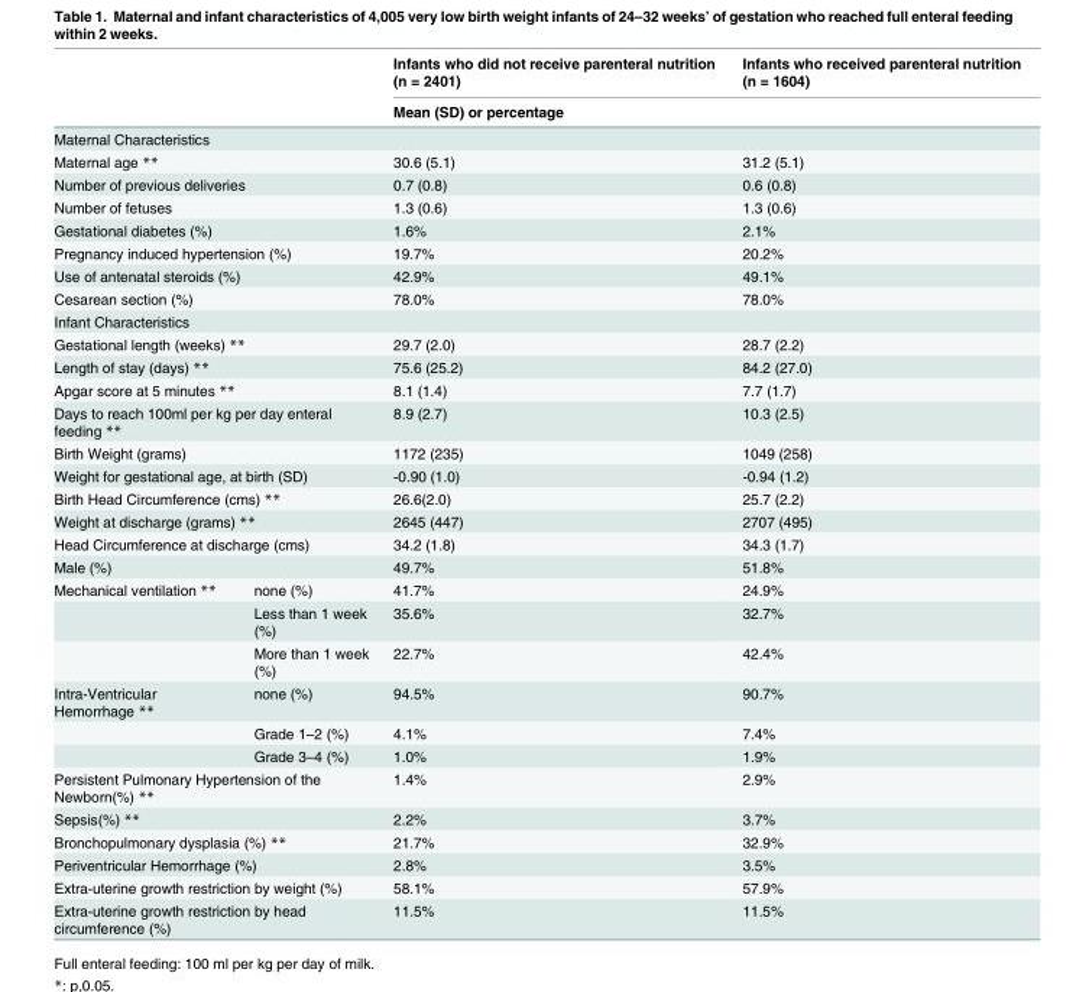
<table><thead><tr><td rowspan="2"></td><td rowspan="2"></td><td>Infants who did not receive parenteral nutrition (n = 2401)</td><td>Infants who received parenteral nutrition (n = 1604)</td></tr><tr><td colspan="2">Mean (SD) or percentage</td></tr></thead><tbody><tr><td colspan="4">Maternal Characteristics</td></tr><tr><td colspan="2">Maternal age **</td><td>30.6 (5.1)</td><td>31.2 (5.1)</td></tr><tr><td colspan="2">Number of previous deliveries</td><td>0.7 (0.8)</td><td>0.6 (0.8)</td></tr><tr><td colspan="2">Number of fetuses</td><td>1.3 (0.6)</td><td>1.3 (0.6)</td></tr><tr><td colspan="2">Gestational diabetes (%)</td><td>1.6%</td><td>2.1%</td></tr><tr><td colspan="2">Pregnancy induced hypertension (%)</td><td>19.7%</td><td>20.2%</td></tr><tr><td colspan="2">Use of antenatal steroids (%)</td><td>42.9%</td><td>49.1%</td></tr><tr><td colspan="2">Cesarean section (%)</td><td>78.0%</td><td>78.0%</td></tr><tr><td colspan="4">Infant Characteristics</td></tr><tr><td colspan="2">Gestational length (weeks) **</td><td>29.7 (2.0)</td><td>28.7 (2.2)</td></tr><tr><td colspan="2">Length of stay (days) **</td><td>75.6 (25.2)</td><td>84.2 (27.0)</td></tr><tr><td colspan="2">Apgar score at 5 minutes **</td><td>8.1 (1.4)</td><td>7.7 (1.7)</td></tr><tr><td colspan="2">Days to reach 100ml per kg per day enteral feeding **</td><td>8.9 (2.7)</td><td>10.3 (2.5)</td></tr><tr><td colspan="2">Birth Weight (grams)</td><td>1172 (235)</td><td>1049 (258)</td></tr><tr><td colspan="2">Weight for gestational age, at birth (SD)</td><td>-0.90 (1.0)</td><td>-0.94 (1.2)</td></tr><tr><td colspan="2">Birth Head Circumference (cms) **</td><td>26.6(2.0)</td><td>25.7 (2.2)</td></tr><tr><td colspan="2">Weight at discharge (grams) **</td><td>2645 (447)</td><td>2707 (495)</td></tr><tr><td colspan="2">Head Circumference at discharge (cms)</td><td>34.2 (1.8)</td><td>34.3 (1.7)</td></tr><tr><td colspan="2">Male (%)</td><td>49.7%</td><td>51.8%</td></tr><tr><td rowspan="3">Mechanical ventilation **</td><td>none (%)</td><td>41.7%</td><td>24.9%</td></tr><tr><td>Less than 1 week (%)</td><td>35.6%</td><td>32.7%</td></tr><tr><td>More than 1 week (%)</td><td>22.7%</td><td>42.4%</td></tr><tr><td rowspan="3">Intra-Ventricular Hemorrhage **</td><td>none (%)</td><td>94.5%</td><td>90.7%</td></tr><tr><td>Grade 1–2 (%)</td><td>4.1%</td><td>7.4%</td></tr><tr><td>Grade 3–4 (%)</td><td>1.0%</td><td>1.9%</td></tr><tr><td colspan="2">Persistent Pulmonary Hypertension of the Newborn(%) **</td><td>1.4%</td><td>2.9%</td></tr><tr><td colspan="2">Sepsis(%) **</td><td>2.2%</td><td>3.7%</td></tr><tr><td colspan="2">Bronchopulmonary dysplasia (%) **</td><td>21.7%</td><td>32.9%</td></tr><tr><td colspan="2">Periventricular Hemorrhage (%)</td><td>2.8%</td><td>3.5%</td></tr><tr><td colspan="2">Extra-uterine growth restriction by weight (%)</td><td>58.1%</td><td>57.9%</td></tr><tr><td colspan="2">Extra-uterine growth restriction by head circumference (%)</td><td>11.5%</td><td>11.5%</td></tr></tbody></table>